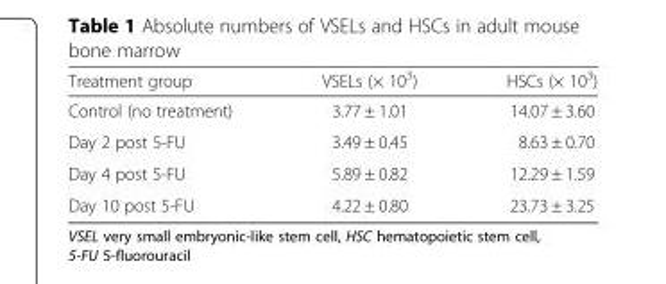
<table><thead><tr><td>Treatment group</td><td>VSELs (× 10<sup>3</sup>)</td><td>HSCs (× 10<sup>3</sup>)</td></tr></thead><tbody><tr><td>Control (no treatment)</td><td>3.77 ± 1.01</td><td>14.07 ± 3.60</td></tr><tr><td>Day 2 post 5-FU</td><td>3.49 ± 0.45</td><td>8.63 ± 0.70</td></tr><tr><td>Day 4 post 5-FU</td><td>5.89 ± 0.82</td><td>12.29 ± 1.59</td></tr><tr><td>Day 10 post 5-FU</td><td>4.22 ± 0.80</td><td>23.73 ± 3.25</td></tr></tbody></table>